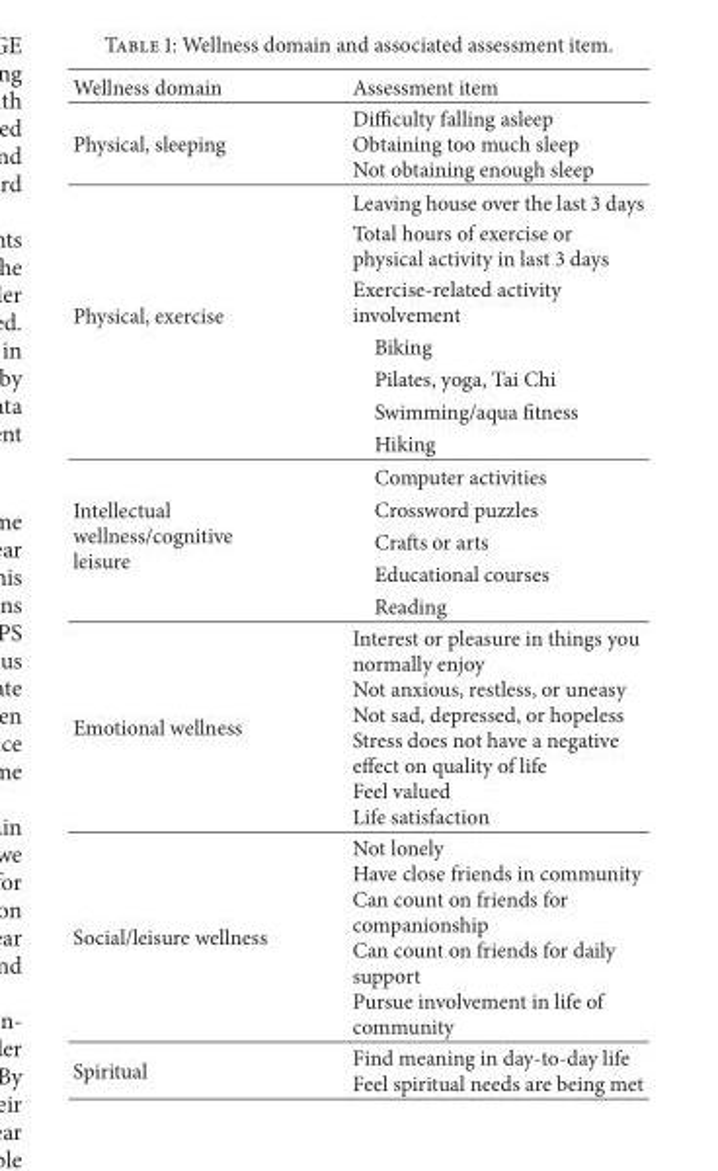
<table><thead><tr><td>Wellness domain</td><td>Assessment item</td></tr></thead><tbody><tr><td>Physical, sleeping</td><td>Difficulty falling asleep Obtaining too much sleep Not obtaining enough sleep</td></tr><tr><td rowspan="7">Physical, exercise</td><td>Leaving house over the last 3 days</td></tr><tr><td>Total hours of exercise or physical activity in last 3 days</td></tr><tr><td>Exercise-related activity involvement</td></tr><tr><td>Biking</td></tr><tr><td>Pilates, yoga, Tai Chi</td></tr><tr><td>Swimming/aqua fitness</td></tr><tr><td>Hiking</td></tr><tr><td rowspan="5">Intellectual wellness/cognitive leisure</td><td>Computer activities</td></tr><tr><td>Crossword puzzles</td></tr><tr><td>Crafts or arts</td></tr><tr><td>Educational courses</td></tr><tr><td>Reading</td></tr><tr><td>Emotional wellness</td><td>Interest or pleasure in things you normally enjoy Not anxious, restless, or uneasy Not sad, depressed, or hopeless Stress does not have a negative effect on quality of life Feel valued Life satisfaction</td></tr><tr><td>Social/leisure wellness</td><td>Not lonely Have close friends in community Can count on friends for companionship Can count on friends for daily support Pursue involvement in life of community</td></tr><tr><td>Spiritual</td><td>Find meaning in day-to-day life Feel spiritual needs are being met</td></tr></tbody></table>